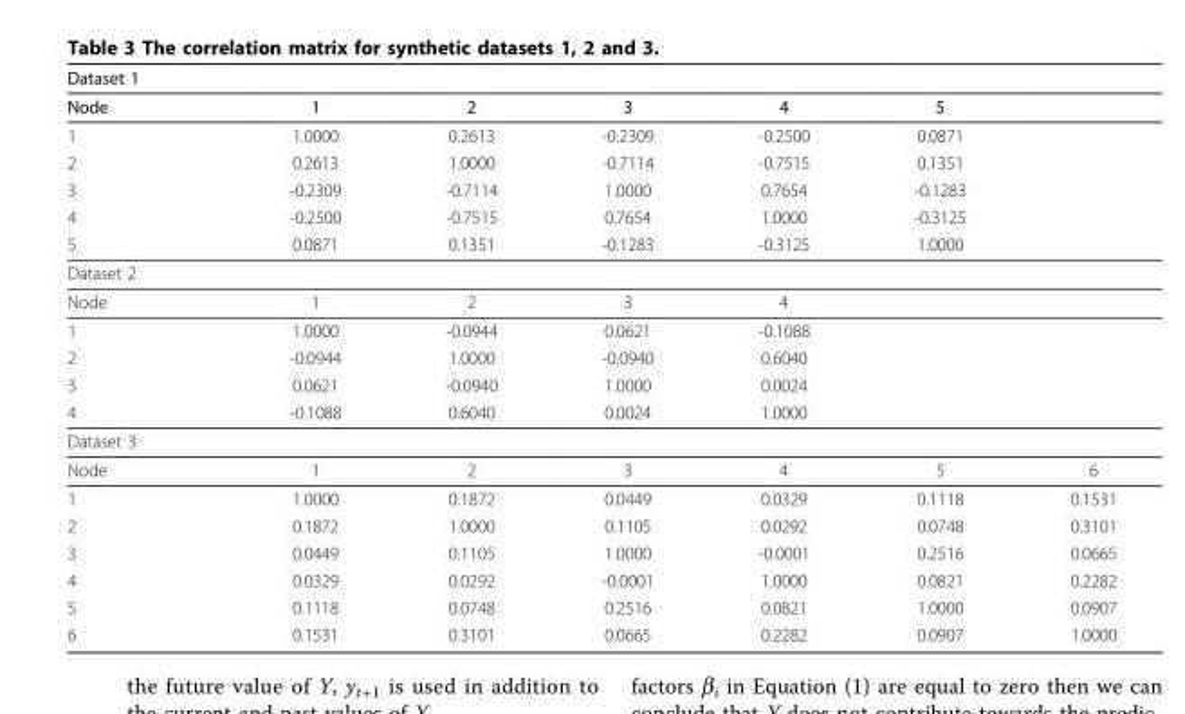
<table><thead><tr><td>Dataset 1</td><td></td><td></td><td></td><td></td><td></td><td></td></tr></thead><tbody><tr><td>Node</td><td>1</td><td>2</td><td>3</td><td>4</td><td>5</td><td></td></tr><tr><td>1</td><td>1.0000</td><td>0.2613</td><td>-0.2309</td><td>-0.2500</td><td>0.0871</td><td></td></tr><tr><td>2</td><td>0.2613</td><td>1.0000</td><td>-0.7114</td><td>-0.7515</td><td>0.1351</td><td></td></tr><tr><td>3</td><td>-0.2309</td><td>-0.7114</td><td>1.0000</td><td>0.7654</td><td>-0.1283</td><td></td></tr><tr><td>4</td><td>-0.2500</td><td>-0.7515</td><td>0.7654</td><td>1.0000</td><td>-0.3125</td><td></td></tr><tr><td>5</td><td>0.0871</td><td>0.1351</td><td>-0.1283</td><td>-0.3125</td><td>1.0000</td><td></td></tr><tr><td colspan="7">Dataset 2</td></tr><tr><td>Node</td><td>1</td><td>2</td><td>3</td><td>4</td><td></td><td></td></tr><tr><td>1</td><td>1.0000</td><td>-0.0944</td><td>0.0621</td><td>-0.1088</td><td></td><td></td></tr><tr><td>2</td><td>-0.0944</td><td>1.0000</td><td>-0.0940</td><td>0.6040</td><td></td><td></td></tr><tr><td>3</td><td>0.0621</td><td>-0.0940</td><td>1.0000</td><td>0.0024</td><td></td><td></td></tr><tr><td>4</td><td>-0.1088</td><td>0.6040</td><td>0.0024</td><td>1.0000</td><td></td><td></td></tr><tr><td colspan="7">Dataset 3</td></tr><tr><td>Node</td><td>1</td><td>2</td><td>3</td><td>4</td><td>5</td><td>6</td></tr><tr><td>1</td><td>1.0000</td><td>0.1872</td><td>0.0449</td><td>0.0329</td><td>0.1118</td><td>0.1531</td></tr><tr><td>2</td><td>0.1872</td><td>1.0000</td><td>0.1105</td><td>0.0292</td><td>0.0748</td><td>0.3101</td></tr><tr><td>3</td><td>0.0449</td><td>0.1105</td><td>1.0000</td><td>-0.0001</td><td>0.2516</td><td>0.0665</td></tr><tr><td>4</td><td>0.0329</td><td>0.0292</td><td>-0.0001</td><td>1.0000</td><td>0.0821</td><td>0.2282</td></tr><tr><td>5</td><td>0.1118</td><td>0.0748</td><td>0.2516</td><td>0.0821</td><td>1.0000</td><td>0.0907</td></tr><tr><td>6</td><td>0.1531</td><td>0.3101</td><td>0.0665</td><td>0.2282</td><td>0.0907</td><td>1.0000</td></tr></tbody></table>